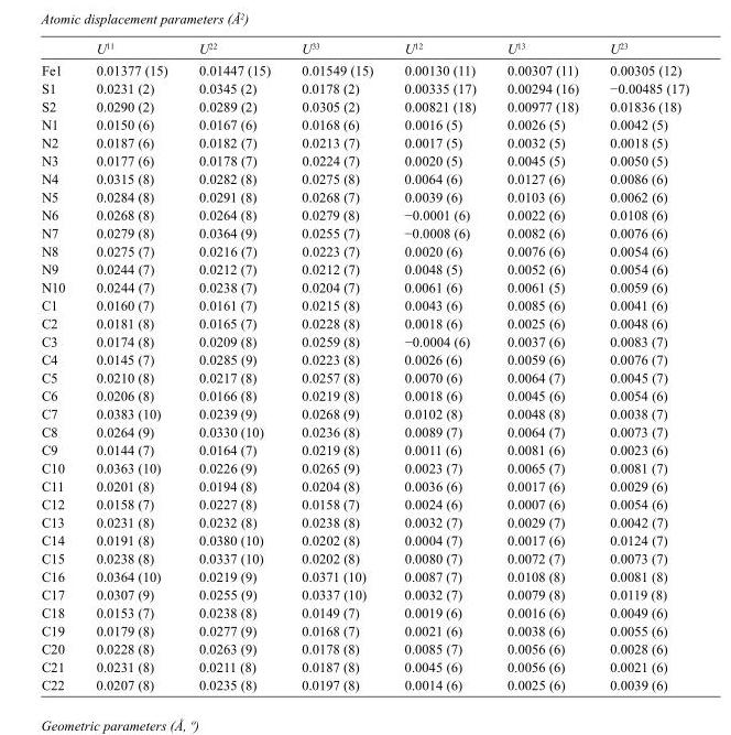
<table><thead><tr><td></td><td>U<sup>11</sup></td><td>U<sup>22</sup></td><td>U<sup>33</sup></td><td>U<sup>12</sup></td><td>U<sup>13</sup></td><td>U<sup>23</sup></td></tr></thead><tbody><tr><td>Fe1</td><td>0.01377 (15)</td><td>0.01447 (15)</td><td>0.01549 (15)</td><td>0.00130 (11)</td><td>0.00307 (11)</td><td>0.00305 (12)</td></tr><tr><td>S1</td><td>0.0231 (2)</td><td>0.0345 (2)</td><td>0.0178 (2)</td><td>0.00335 (17)</td><td>0.00294 (16)</td><td>−0.00485 (17)</td></tr><tr><td>S2</td><td>0.0290 (2)</td><td>0.0289 (2)</td><td>0.0305 (2)</td><td>0.00821 (18)</td><td>0.00977 (18)</td><td>0.01836 (18)</td></tr><tr><td>N1</td><td>0.0150 (6)</td><td>0.0167 (6)</td><td>0.0168 (6)</td><td>0.0016 (5)</td><td>0.0026 (5)</td><td>0.0042 (5)</td></tr><tr><td>N2</td><td>0.0187 (6)</td><td>0.0182 (7)</td><td>0.0213 (7)</td><td>0.0017 (5)</td><td>0.0032 (5)</td><td>0.0018 (5)</td></tr><tr><td>N3</td><td>0.0177 (6)</td><td>0.0178 (7)</td><td>0.0224 (7)</td><td>0.0020 (5)</td><td>0.0045 (5)</td><td>0.0050 (5)</td></tr><tr><td>N4</td><td>0.0315 (8)</td><td>0.0282 (8)</td><td>0.0275 (8)</td><td>0.0064 (6)</td><td>0.0127 (6)</td><td>0.0086 (6)</td></tr><tr><td>N5</td><td>0.0284 (8)</td><td>0.0291 (8)</td><td>0.0268 (7)</td><td>0.0039 (6)</td><td>0.0103 (6)</td><td>0.0062 (6)</td></tr><tr><td>N6</td><td>0.0268 (8)</td><td>0.0264 (8)</td><td>0.0279 (8)</td><td>−0.0001 (6)</td><td>0.0022 (6)</td><td>0.0108 (6)</td></tr><tr><td>N7</td><td>0.0279 (8)</td><td>0.0364 (9)</td><td>0.0255 (7)</td><td>−0.0008 (6)</td><td>0.0082 (6)</td><td>0.0076 (6)</td></tr><tr><td>N8</td><td>0.0275 (7)</td><td>0.0216 (7)</td><td>0.0223 (7)</td><td>0.0020 (6)</td><td>0.0076 (6)</td><td>0.0054 (6)</td></tr><tr><td>N9</td><td>0.0244 (7)</td><td>0.0212 (7)</td><td>0.0212 (7)</td><td>0.0048 (5)</td><td>0.0052 (6)</td><td>0.0054 (6)</td></tr><tr><td>N10</td><td>0.0244 (7)</td><td>0.0238 (7)</td><td>0.0204 (7)</td><td>0.0061 (6)</td><td>0.0061 (5)</td><td>0.0059 (6)</td></tr><tr><td>C1</td><td>0.0160 (7)</td><td>0.0161 (7)</td><td>0.0215 (8)</td><td>0.0043 (6)</td><td>0.0085 (6)</td><td>0.0041 (6)</td></tr><tr><td>C2</td><td>0.0181 (8)</td><td>0.0165 (7)</td><td>0.0228 (8)</td><td>0.0018 (6)</td><td>0.0025 (6)</td><td>0.0048 (6)</td></tr><tr><td>C3</td><td>0.0174 (8)</td><td>0.0209 (8)</td><td>0.0259 (8)</td><td>−0.0004 (6)</td><td>0.0037 (6)</td><td>0.0083 (7)</td></tr><tr><td>C4</td><td>0.0145 (7)</td><td>0.0285 (9)</td><td>0.0223 (8)</td><td>0.0026 (6)</td><td>0.0059 (6)</td><td>0.0076 (7)</td></tr><tr><td>C5</td><td>0.0210 (8)</td><td>0.0217 (8)</td><td>0.0257 (8)</td><td>0.0070 (6)</td><td>0.0064 (7)</td><td>0.0045 (7)</td></tr><tr><td>C6</td><td>0.0206 (8)</td><td>0.0166 (8)</td><td>0.0219 (8)</td><td>0.0018 (6)</td><td>0.0045 (6)</td><td>0.0054 (6)</td></tr><tr><td>C7</td><td>0.0383 (10)</td><td>0.0239 (9)</td><td>0.0268 (9)</td><td>0.0102 (8)</td><td>0.0048 (8)</td><td>0.0038 (7)</td></tr><tr><td>C8</td><td>0.0264 (9)</td><td>0.0330 (10)</td><td>0.0236 (8)</td><td>0.0089 (7)</td><td>0.0064 (7)</td><td>0.0073 (7)</td></tr><tr><td>C9</td><td>0.0144 (7)</td><td>0.0164 (7)</td><td>0.0219 (8)</td><td>0.0011 (6)</td><td>0.0081 (6)</td><td>0.0023 (6)</td></tr><tr><td>C10</td><td>0.0363 (10)</td><td>0.0226 (9)</td><td>0.0265 (9)</td><td>0.0023 (7)</td><td>0.0065 (7)</td><td>0.0081 (7)</td></tr><tr><td>C11</td><td>0.0201 (8)</td><td>0.0194 (8)</td><td>0.0204 (8)</td><td>0.0036 (6)</td><td>0.0017 (6)</td><td>0.0029 (6)</td></tr><tr><td>C12</td><td>0.0158 (7)</td><td>0.0227 (8)</td><td>0.0158 (7)</td><td>0.0024 (6)</td><td>0.0007 (6)</td><td>0.0054 (6)</td></tr><tr><td>C13</td><td>0.0231 (8)</td><td>0.0232 (8)</td><td>0.0238 (8)</td><td>0.0032 (7)</td><td>0.0029 (7)</td><td>0.0042 (7)</td></tr><tr><td>C14</td><td>0.0191 (8)</td><td>0.0380 (10)</td><td>0.0202 (8)</td><td>0.0004 (7)</td><td>0.0017 (6)</td><td>0.0124 (7)</td></tr><tr><td>C15</td><td>0.0238 (8)</td><td>0.0337 (10)</td><td>0.0202 (8)</td><td>0.0080 (7)</td><td>0.0072 (7)</td><td>0.0073 (7)</td></tr><tr><td>C16</td><td>0.0364 (10)</td><td>0.0219 (9)</td><td>0.0371 (10)</td><td>0.0087 (7)</td><td>0.0108 (8)</td><td>0.0081 (8)</td></tr><tr><td>C17</td><td>0.0307 (9)</td><td>0.0255 (9)</td><td>0.0337 (10)</td><td>0.0032 (7)</td><td>0.0079 (8)</td><td>0.0119 (8)</td></tr><tr><td>C18</td><td>0.0153 (7)</td><td>0.0238 (8)</td><td>0.0149 (7)</td><td>0.0019 (6)</td><td>0.0016 (6)</td><td>0.0049 (6)</td></tr><tr><td>C19</td><td>0.0179 (8)</td><td>0.0277 (9)</td><td>0.0168 (7)</td><td>0.0021 (6)</td><td>0.0038 (6)</td><td>0.0055 (6)</td></tr><tr><td>C20</td><td>0.0228 (8)</td><td>0.0263 (9)</td><td>0.0178 (8)</td><td>0.0085 (7)</td><td>0.0056 (6)</td><td>0.0028 (6)</td></tr><tr><td>C21</td><td>0.0231 (8)</td><td>0.0211 (8)</td><td>0.0187 (8)</td><td>0.0045 (6)</td><td>0.0056 (6)</td><td>0.0021 (6)</td></tr><tr><td>C22</td><td>0.0207 (8)</td><td>0.0235 (8)</td><td>0.0197 (8)</td><td>0.0014 (6)</td><td>0.0025 (6)</td><td>0.0039 (6)</td></tr></tbody></table>